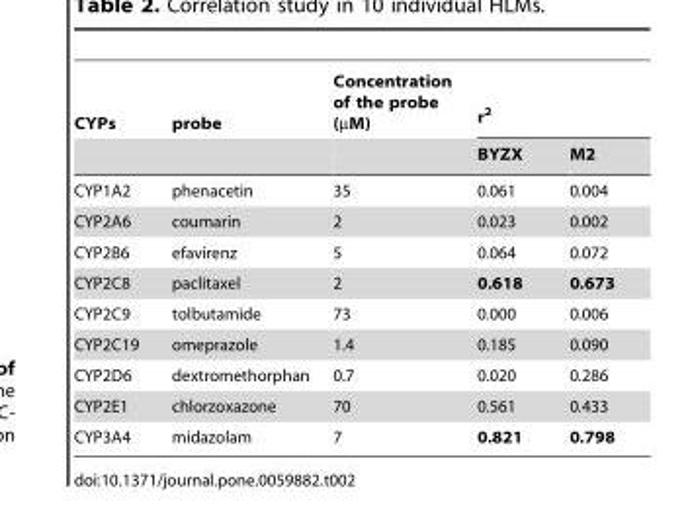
<table><thead><tr><td rowspan="2">CYPs</td><td rowspan="2">probe</td><td rowspan="2">Concentration of the probe (µM)</td><td colspan="2">r<sup>2</sup></td></tr><tr><td>BYZX</td><td>M2</td></tr></thead><tbody><tr><td>CYP1A2</td><td>phenacetin</td><td>35</td><td>0.061</td><td>0.004</td></tr><tr><td>CYP2A6</td><td>coumarin</td><td>2</td><td>0.023</td><td>0.002</td></tr><tr><td>CYP2B6</td><td>efavirenz</td><td>5</td><td>0.064</td><td>0.072</td></tr><tr><td>CYP2C8</td><td>paclitaxel</td><td>2</td><td>0.618</td><td>0.673</td></tr><tr><td>CYP2C9</td><td>tolbutamide</td><td>73</td><td>0.000</td><td>0.006</td></tr><tr><td>CYP2C19</td><td>omeprazole</td><td>1.4</td><td>0.185</td><td>0.090</td></tr><tr><td>CYP2D6</td><td>dextromethorphan</td><td>0.7</td><td>0.020</td><td>0.286</td></tr><tr><td>CYP2E1</td><td>chlorzoxazone</td><td>70</td><td>0.561</td><td>0.433</td></tr><tr><td>CYP3A4</td><td>midazolam</td><td>7</td><td>0.821</td><td>0.798</td></tr></tbody></table>